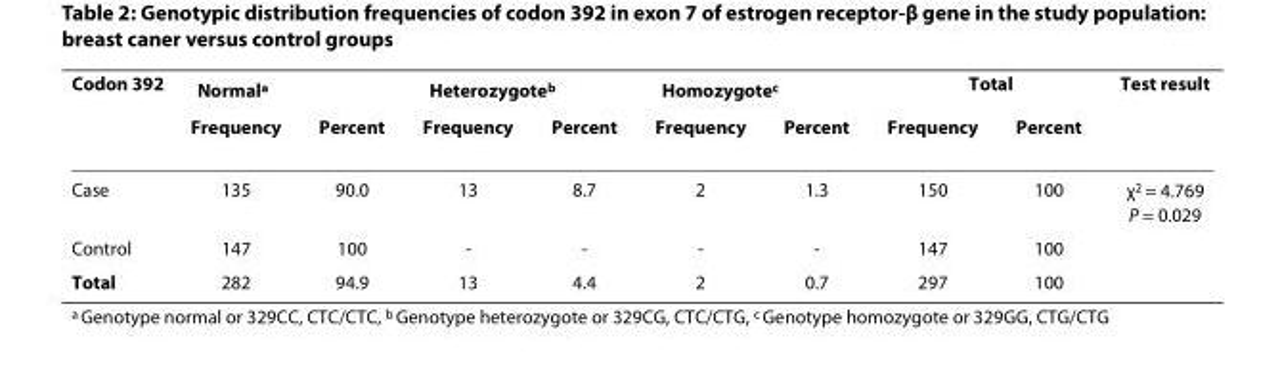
<table><thead><tr><td rowspan="2">Codon 392</td><td colspan="2">Normal<sup>a</sup></td><td colspan="2">Heterozygote<sup>b</sup></td><td colspan="2">Homozygote<sup>c</sup></td><td colspan="2">Total</td><td rowspan="2">Test result</td></tr><tr><td>Frequency</td><td>Percent</td><td>Frequency</td><td>Percent</td><td>Frequency</td><td>Percent</td><td>Frequency</td><td>Percent</td></tr></thead><tbody><tr><td>Case</td><td>135</td><td>90.0</td><td>13</td><td>8.7</td><td>2</td><td>1.3</td><td>150</td><td>100</td><td>χ<sup>2</sup> = 4.769 P = 0.029</td></tr><tr><td>Control</td><td>147</td><td>100</td><td>-</td><td>-</td><td>-</td><td>-</td><td>147</td><td>100</td><td></td></tr><tr><td>Total</td><td>282</td><td>94.9</td><td>13</td><td>4.4</td><td>2</td><td>0.7</td><td>297</td><td>100</td><td></td></tr></tbody></table>